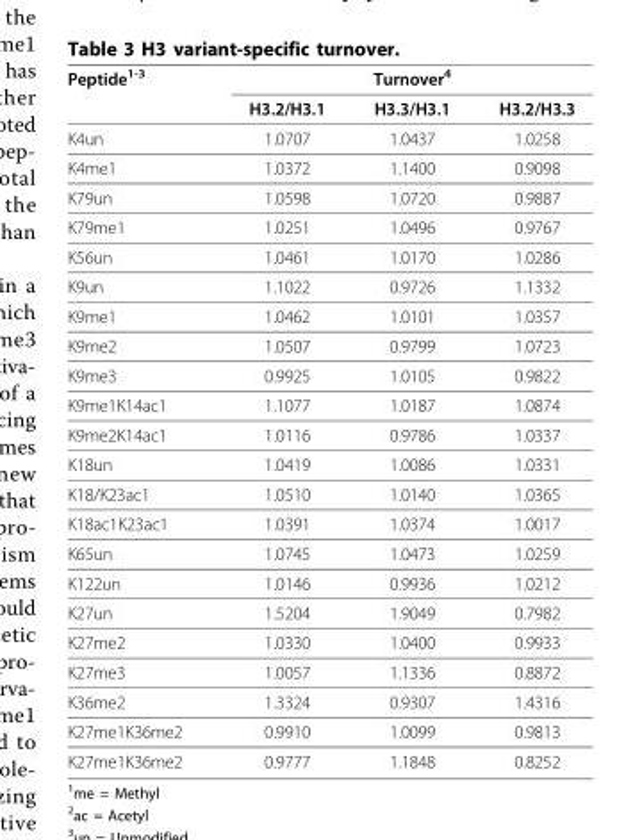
<table><thead><tr><td rowspan="2">Peptide<sup>1-3</sup></td><td colspan="3">Turnover<sup>4</sup></td></tr><tr><td>H3.2/H3.1</td><td>H3.3/H3.1</td><td>H3.2/H3.3</td></tr></thead><tbody><tr><td>K4un</td><td>1.0707</td><td>1.0437</td><td>1.0258</td></tr><tr><td>K4me1</td><td>1.0372</td><td>1.1400</td><td>0.9098</td></tr><tr><td>K79un</td><td>1.0598</td><td>1.0720</td><td>0.9887</td></tr><tr><td>K79me1</td><td>1.0251</td><td>1.0496</td><td>0.9767</td></tr><tr><td>K56un</td><td>1.0461</td><td>1.0170</td><td>1.0286</td></tr><tr><td>K9un</td><td>1.1022</td><td>0.9726</td><td>1.1332</td></tr><tr><td>K9me1</td><td>1.0462</td><td>1.0101</td><td>1.0357</td></tr><tr><td>K9me2</td><td>1.0507</td><td>0.9799</td><td>1.0723</td></tr><tr><td>K9me3</td><td>0.9925</td><td>1.0105</td><td>0.9822</td></tr><tr><td>K9me1K14ac1</td><td>1.1077</td><td>1.0187</td><td>1.0874</td></tr><tr><td>K9me2K14ac1</td><td>1.0116</td><td>0.9786</td><td>1.0337</td></tr><tr><td>K18un</td><td>1.0419</td><td>1.0086</td><td>1.0331</td></tr><tr><td>K18/K23ac1</td><td>1.0510</td><td>1.0140</td><td>1.0365</td></tr><tr><td>K18ac1K23ac1</td><td>1.0391</td><td>1.0374</td><td>1.0017</td></tr><tr><td>K65un</td><td>1.0745</td><td>1.0473</td><td>1.0259</td></tr><tr><td>K122un</td><td>1.0146</td><td>0.9936</td><td>1.0212</td></tr><tr><td>K27un</td><td>1.5204</td><td>1.9049</td><td>0.7982</td></tr><tr><td>K27me2</td><td>1.0330</td><td>1.0400</td><td>0.9933</td></tr><tr><td>K27me3</td><td>1.0057</td><td>1.1336</td><td>0.8872</td></tr><tr><td>K36me2</td><td>1.3324</td><td>0.9307</td><td>1.4316</td></tr><tr><td>K27me1K36me2</td><td>0.9910</td><td>1.0099</td><td>0.9813</td></tr><tr><td>K27me1K36me2</td><td>0.9777</td><td>1.1848</td><td>0.8252</td></tr></tbody></table>